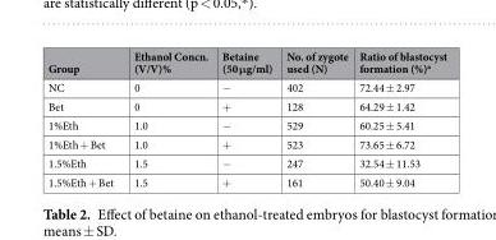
<table><thead><tr><td>Group</td><td>Ethanol Concn. (V/V)%</td><td>Betaine (50 μg/ml)</td><td>No. of zygote used (N)</td><td>Ratio of blastocyst formation (%)<sup>a</sup></td></tr></thead><tbody><tr><td>NC</td><td>0</td><td>−</td><td>402</td><td>72.44 ± 2.97</td></tr><tr><td>Bet</td><td>0</td><td>+</td><td>128</td><td>64.29 ± 1.42</td></tr><tr><td>1%Eth</td><td>1.0</td><td>−</td><td>529</td><td>60.25 ± 5.41</td></tr><tr><td>1%Eth + Bet</td><td>1.0</td><td>+</td><td>523</td><td>73.65 ± 6.72</td></tr><tr><td>1.5%Eth</td><td>1.5</td><td>−</td><td>247</td><td>32.54 ± 11.53</td></tr><tr><td>1.5%Eth + Bet</td><td>1.5</td><td>+</td><td>161</td><td>50.40 ± 9.04</td></tr></tbody></table>